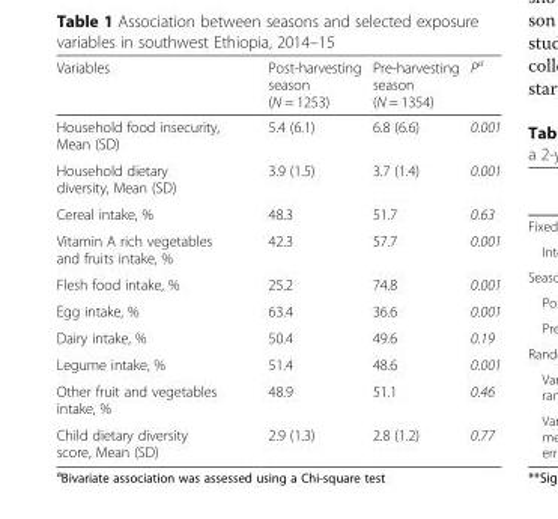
<table><thead><tr><td>Variables</td><td>Post-harvesting season (N = 1253)</td><td>Pre-harvesting season (N = 1354)</td><td>P<sup>a</sup></td></tr></thead><tbody><tr><td>Household food insecurity, Mean (SD)</td><td>5.4 (6.1)</td><td>6.8 (6.6)</td><td>0.001</td></tr><tr><td>Household dietary diversity, Mean (SD)</td><td>3.9 (1.5)</td><td>3.7 (1.4)</td><td>0.001</td></tr><tr><td>Cereal intake, %</td><td>48.3</td><td>51.7</td><td>0.63</td></tr><tr><td>Vitamin A rich vegetables and fruits intake, %</td><td>42.3</td><td>57.7</td><td>0.001</td></tr><tr><td>Flesh food intake, %</td><td>25.2</td><td>74.8</td><td>0.001</td></tr><tr><td>Egg intake, %</td><td>63.4</td><td>36.6</td><td>0.001</td></tr><tr><td>Dairy intake, %</td><td>50.4</td><td>49.6</td><td>0.19</td></tr><tr><td>Legume intake, %</td><td>51.4</td><td>48.6</td><td>0.001</td></tr><tr><td>Other fruit and vegetables intake, %</td><td>48.9</td><td>51.1</td><td>0.46</td></tr><tr><td>Child dietary diversity score, Mean (SD)</td><td>2.9 (1.3)</td><td>2.8 (1.2)</td><td>0.77</td></tr></tbody></table>